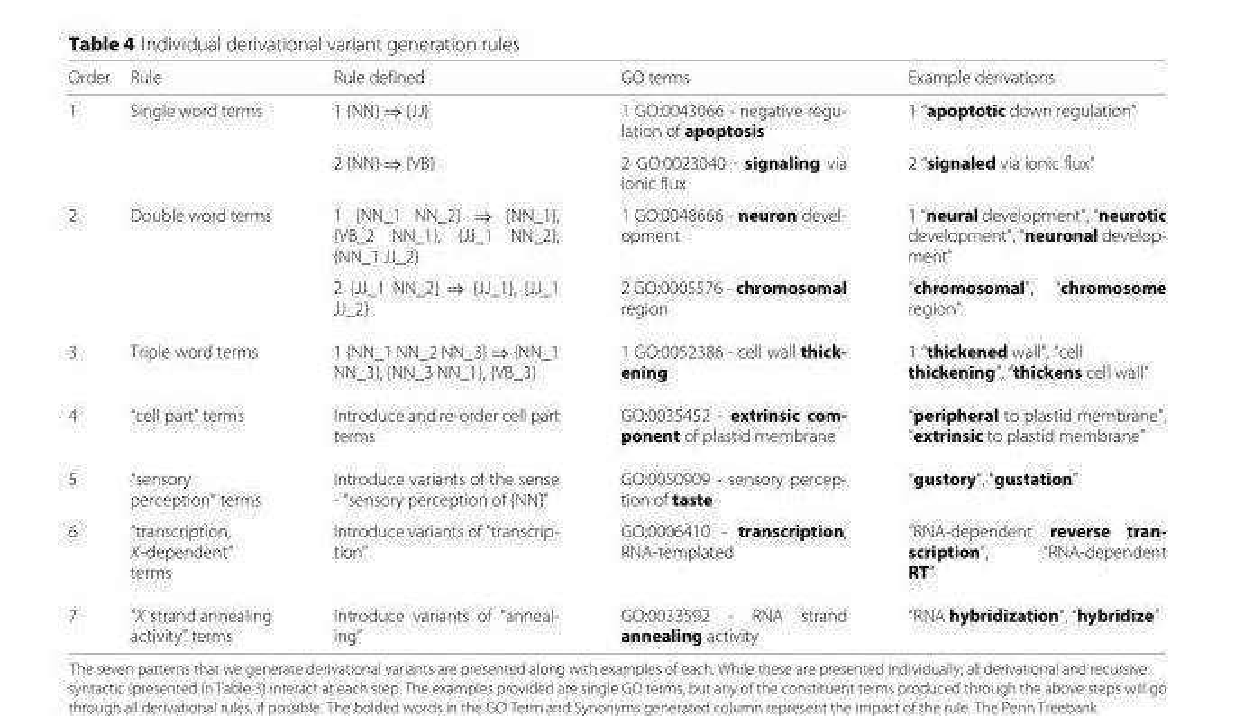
<table><thead><tr><td>Order</td><td>Rule</td><td>Rule defined</td><td>GO terms</td><td>Example derivations</td></tr></thead><tbody><tr><td rowspan="2">1</td><td>Single word terms</td><td>1 {NN} ⇒ {JJ}</td><td>1 GO:0043066 - negative regu- lation of apoptosis</td><td>1 “apoptotic down regulation”</td></tr><tr><td></td><td>2 {NN} ⇒ {VB}</td><td>2 GO:0023040 - signaling via ionic flux</td><td>2 “signaled via ionic flux”</td></tr><tr><td rowspan="2">2</td><td>Double word terms</td><td>1 {NN_1 NN_2} ⇒ {NN_1}, {VB_2 NN_1}, {JJ_1 NN_2}, {NN_1 JJ_2}</td><td>1 GO:0048666 - neuron devel- opment</td><td>1 “neural development”, “neurotic development”, “neuronal develop- ment”</td></tr><tr><td></td><td>2 {JJ_1 NN_2} ⇒ {JJ_1}, {JJ_1 JJ_2}</td><td>2 GO:0005576 - chromosomal region</td><td>“chromosomal”, “chromosome region”</td></tr><tr><td>3</td><td>Triple word terms</td><td>1 {NN_1 NN_2 NN_3} ⇒ {NN_1 NN_3}, {NN_3 NN_1}, {VB_3}</td><td>1 GO:0052386 - cell wall thick- ening</td><td>1 “thickened wall”, “cell thickening”, “thickens cell wall”</td></tr><tr><td>4</td><td>“cell part” terms</td><td>Introduce and re-order cell part terms</td><td>GO:0035452 - extrinsic com- ponent of plastid membrane</td><td>“peripheral to plastid membrane”, “extrinsic to plastid membrane”</td></tr><tr><td>5</td><td>“sensory perception” terms</td><td>Introduce variants of the sense - “sensory perception of {NN}”</td><td>GO:0050909 - sensory percep- tion of taste</td><td>“gustory”, “gustation”</td></tr><tr><td>6</td><td>“transcription, X-dependent” terms</td><td>Introduce variants of “transcrip- tion”</td><td>GO:0006410 - transcription, RNA-templated</td><td>“RNA-dependent reverse tran- scription”, “RNA-dependent RT”</td></tr><tr><td>7</td><td>“X strand annealing activity” terms</td><td>Introduce variants of “anneal- ing”</td><td>GO:0033592 - RNA strand annealing activity</td><td>“RNA hybridization”, “hybridize”</td></tr></tbody></table>